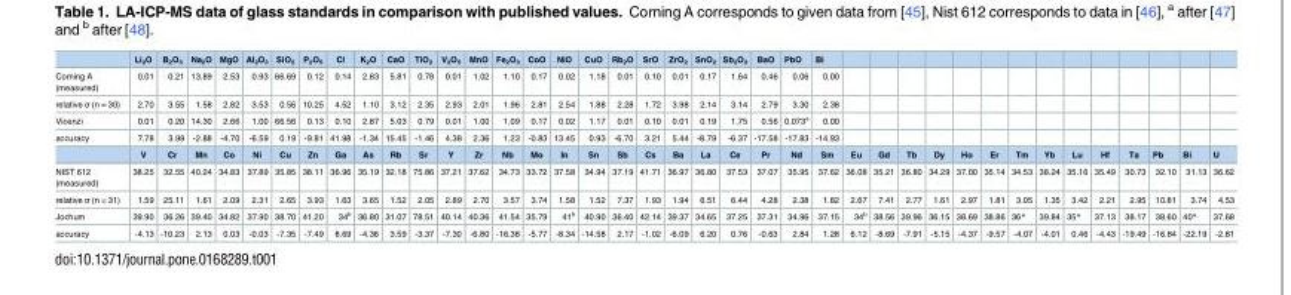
<table><thead><tr><td></td><td>Li<sub>2</sub>O</td><td>B<sub>2</sub>O<sub>3</sub></td><td>Na<sub>2</sub>O</td><td>MgO</td><td>Al<sub>2</sub>O<sub>3</sub></td><td>SiO<sub>2</sub></td><td>P<sub>2</sub>O<sub>5</sub></td><td>Cl</td><td>K<sub>2</sub>O</td><td>CaO</td><td>TiO<sub>2</sub></td><td>V<sub>2</sub>O<sub>5</sub></td><td>MnO</td><td>Fe<sub>2</sub>O<sub>3</sub></td><td>CoO</td><td>NiO</td><td>CuO</td><td>Rb<sub>2</sub>O</td><td>SrO</td><td>ZrO<sub>2</sub></td><td>SnO<sub>2</sub></td><td>Sb<sub>2</sub>O<sub>3</sub></td><td>BaO</td><td>PbO</td><td>Bi</td><td></td><td></td><td></td><td></td><td></td><td></td><td></td><td></td><td></td><td></td><td></td><td></td><td></td><td></td></tr></thead><tbody><tr><td>Corning A (measured)</td><td>0.01</td><td>0.21</td><td>13.89</td><td>2.53</td><td>0.93</td><td>66.69</td><td>0.12</td><td>0.14</td><td>2.83</td><td>5.81</td><td>0.78</td><td>0.01</td><td>1.02</td><td>1.10</td><td>0.17</td><td>0.02</td><td>1.18</td><td>0.01</td><td>0.10</td><td>0.01</td><td>0.17</td><td>1.64</td><td>0.46</td><td>0.06</td><td>0.00</td><td></td><td></td><td></td><td></td><td></td><td></td><td></td><td></td><td></td><td></td><td></td><td></td><td></td><td></td></tr><tr><td>relative σ (n = 30)</td><td>2.70</td><td>3.55</td><td>1.58</td><td>2.82</td><td>3.53</td><td>0.56</td><td>10.25</td><td>4.52</td><td>1.10</td><td>3.12</td><td>2.35</td><td>2.93</td><td>2.01</td><td>1.96</td><td>2.81</td><td>2.54</td><td>1.88</td><td>2.28</td><td>1.72</td><td>3.98</td><td>2.14</td><td>3.14</td><td>2.79</td><td>3.30</td><td>2.38</td><td></td><td></td><td></td><td></td><td></td><td></td><td></td><td></td><td></td><td></td><td></td><td></td><td></td><td></td></tr><tr><td>Vicenzi</td><td>0.01</td><td>0.20</td><td>14.30</td><td>2.66</td><td>1.00</td><td>66.56</td><td>0.13</td><td>0.10</td><td>2.87</td><td>5.03</td><td>0.79</td><td>0.01</td><td>1.00</td><td>1.09</td><td>0.17</td><td>0.02</td><td>1.17</td><td>0.01</td><td>0.10</td><td>0.01</td><td>0.19</td><td>1.75</td><td>0.56</td><td>0.073<sup>a</sup></td><td>0.00</td><td></td><td></td><td></td><td></td><td></td><td></td><td></td><td></td><td></td><td></td><td></td><td></td><td></td><td></td></tr><tr><td rowspan="2">accuracy</td><td>7.78</td><td>3.99</td><td>-2.88</td><td>-4.70</td><td>-6.59</td><td>0.19</td><td>-9.81</td><td>41.98</td><td>-1.34</td><td>15.45</td><td>-1.46</td><td>4.38</td><td>2.36</td><td>1.23</td><td>-0.83</td><td>13.45</td><td>0.93</td><td>-6.70</td><td>3.21</td><td>5.44</td><td>-8.79</td><td>-6.37</td><td>-17.58</td><td>-17.83</td><td>-14.93</td><td></td><td></td><td></td><td></td><td></td><td></td><td></td><td></td><td></td><td></td><td></td><td></td><td></td><td></td></tr><tr><td>V</td><td>Cr</td><td>Mn</td><td>Co</td><td>Ni</td><td>Cu</td><td>Zn</td><td>Ga</td><td>As</td><td>Rb</td><td>Sr</td><td>Y</td><td>Zr</td><td>Nb</td><td>Mo</td><td>In</td><td>Sn</td><td>Sb</td><td>Cs</td><td>Ba</td><td>La</td><td>Ce</td><td>Pr</td><td>Nd</td><td>Sm</td><td>Eu</td><td>Gd</td><td>Tb</td><td>Dy</td><td>Ho</td><td>Er</td><td>Tm</td><td>Yb</td><td>Lu</td><td>Hf</td><td>Ta</td><td>Pb</td><td>Bi</td><td>U</td></tr><tr><td>NIST 612 (measured)</td><td>38.25</td><td>32.55</td><td>40.24</td><td>34.83</td><td>37.89</td><td>35.85</td><td>38.11</td><td>36.96</td><td>35.19</td><td>32.18</td><td>75.86</td><td>37.21</td><td>37.62</td><td>34.73</td><td>33.72</td><td>37.58</td><td>34.94</td><td>37.19</td><td>41.71</td><td>36.97</td><td>36.80</td><td>37.53</td><td>37.07</td><td>35.95</td><td>37.62</td><td>36.08</td><td>35.21</td><td>36.80</td><td>34.29</td><td>37.00</td><td>35.14</td><td>34.53</td><td>38.24</td><td>35.16</td><td>35.49</td><td>30.73</td><td>32.10</td><td>31.13</td><td>36.62</td></tr><tr><td>relative σ (n = 31)</td><td>1.59</td><td>25.11</td><td>1.61</td><td>2.09</td><td>2.31</td><td>2.65</td><td>3.93</td><td>1.63</td><td>3.65</td><td>1.52</td><td>2.05</td><td>2.89</td><td>2.70</td><td>3.57</td><td>3.74</td><td>1.58</td><td>1.52</td><td>7.37</td><td>1.93</td><td>1.94</td><td>6.51</td><td>6.44</td><td>4.28</td><td>2.38</td><td>1.82</td><td>2.67</td><td>7.41</td><td>2.77</td><td>1.61</td><td>2.97</td><td>1.81</td><td>3.05</td><td>1.35</td><td>3.42</td><td>2.21</td><td>2.95</td><td>10.81</td><td>3.74</td><td>4.53</td></tr><tr><td>Jochum</td><td>39.90</td><td>36.26</td><td>39.40</td><td>34.82</td><td>37.90</td><td>38.70</td><td>41.20</td><td>34<sup>b</sup></td><td>36.80</td><td>31.07</td><td>78.51</td><td>40.14</td><td>40.36</td><td>41.54</td><td>35.79</td><td>41<sup>b</sup></td><td>40.90</td><td>36.40</td><td>42.14</td><td>39.37</td><td>34.65</td><td>37.25</td><td>37.31</td><td>34.96</td><td>37.15</td><td>34<sup>b</sup></td><td>38.56</td><td>39.96</td><td>36.15</td><td>38.69</td><td>38.86</td><td>36*</td><td>39.84</td><td>35*</td><td>37.13</td><td>38.17</td><td>38.60</td><td>40*</td><td>37.68</td></tr><tr><td>accuracy</td><td>-4.13</td><td>-10.23</td><td>2.13</td><td>0.03</td><td>-0.03</td><td>-7.35</td><td>-7.49</td><td>8.69</td><td>-4.36</td><td>3.59</td><td>-3.37</td><td>-7.30</td><td>-6.80</td><td>-16.38</td><td>-5.77</td><td>-8.34</td><td>-14.58</td><td>2.17</td><td>-1.02</td><td>-6.09</td><td>6.20</td><td>0.76</td><td>-0.63</td><td>2.84</td><td>1.28</td><td>6.12</td><td>-8.69</td><td>-7.91</td><td>-5.15</td><td>-4.37</td><td>-9.57</td><td>-4.07</td><td>-4.01</td><td>0.46</td><td>-4.43</td><td>-19.49</td><td>-16.84</td><td>-22.19</td><td>-2.81</td></tr></tbody></table>